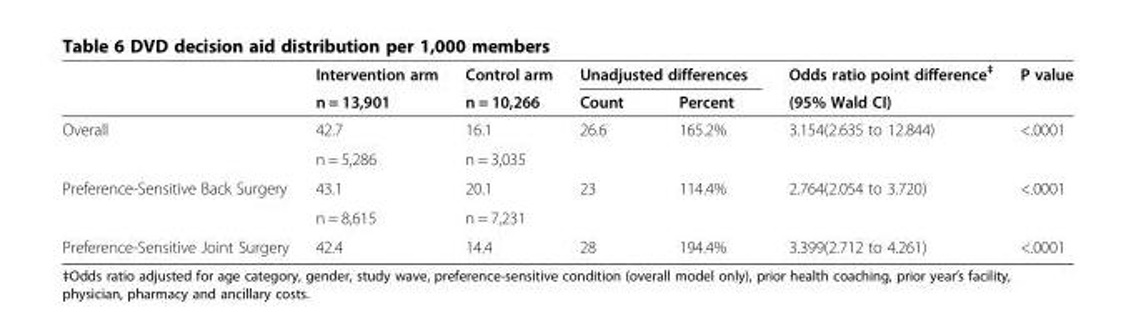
<table><thead><tr><td rowspan="2"></td><td rowspan="2">Intervention arm n = 13,901</td><td rowspan="2">Control arm n = 10,266</td><td colspan="2">Unadjusted differences</td><td rowspan="2">Odds ratio point difference<sup>‡</sup> (95% Wald CI)</td><td rowspan="2">P value</td></tr><tr><td>Count</td><td>Percent</td></tr></thead><tbody><tr><td rowspan="2">Overall</td><td>42.7</td><td>16.1</td><td>26.6</td><td>165.2%</td><td>3.154(2.635 to 12.844)</td><td>&lt;.0001</td></tr><tr><td>n = 5,286</td><td>n = 3,035</td><td></td><td></td><td></td><td></td></tr><tr><td rowspan="2">Preference-Sensitive Back Surgery</td><td>43.1</td><td>20.1</td><td>23</td><td>114.4%</td><td>2.764(2.054 to 3.720)</td><td>&lt;.0001</td></tr><tr><td>n = 8,615</td><td>n = 7,231</td><td></td><td></td><td></td><td></td></tr><tr><td>Preference-Sensitive Joint Surgery</td><td>42.4</td><td>14.4</td><td>28</td><td>194.4%</td><td>3.399(2.712 to 4.261)</td><td>&lt;.0001</td></tr></tbody></table>